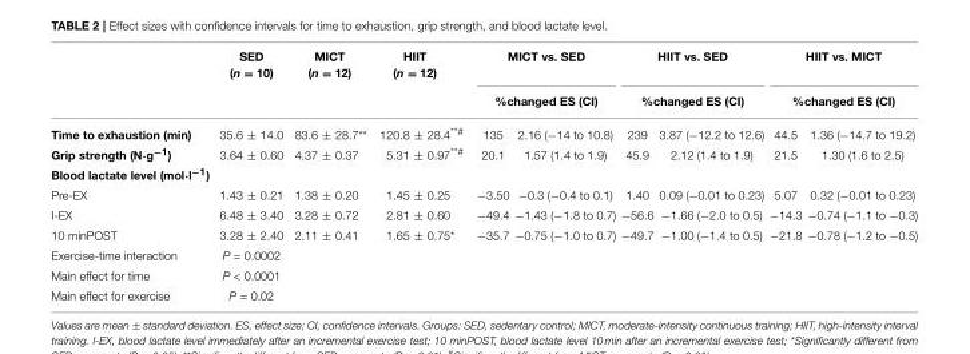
<table><thead><tr><td rowspan="3">Time to exhaustion (min)</td><td rowspan="3">SED (n = 10) 35.6 ± 14.0</td><td rowspan="3">MICT (n = 12) 83.6 ± 28.7**</td><td rowspan="3">HIIT (n = 12) 120.8 ± 28.4<sup>**#</sup></td><td rowspan="2" colspan="2">MICT vs. SED %changed ES (CI)</td><td rowspan="2" colspan="2">HIIT vs. SED %changed ES (CI)</td><td rowspan="2" colspan="2">HIIT vs. MICT %changed ES (CI)</td></tr><tr></tr><tr><td>135</td><td>2.16 (−14 to 10.8)</td><td>239</td><td>3.87 (−12.2 to 12.6)</td><td>44.5</td><td>1.36 (−14.7 to 19.2)</td></tr></thead><tbody><tr><td>Grip strength (N·g<sup>−1</sup>)</td><td>3.64 ± 0.60</td><td>4.37 ± 0.37</td><td>5.31 ± 0.97<sup>**#</sup></td><td>20.1</td><td>1.57 (1.4 to 1.9)</td><td>45.9</td><td>2.12 (1.4 to 1.9)</td><td>21.5</td><td>1.30 (1.6 to 2.5)</td></tr><tr><td colspan="10">Blood lactate level (mol·l<sup>−1</sup>)</td></tr><tr><td>Pre-EX</td><td>1.43 ± 0.21</td><td>1.38 ± 0.20</td><td>1.45 ± 0.25</td><td>−3.50</td><td>−0.3 (−0.4 to 0.1)</td><td>1.40</td><td>0.09 (−0.01 to 0.23)</td><td>5.07</td><td>0.32 (−0.01 to 0.23)</td></tr><tr><td>I-EX</td><td>6.48 ± 3.40</td><td>3.28 ± 0.72</td><td>2.81 ± 0.60</td><td>−49.4</td><td>−1.43 (−1.8 to 0.7)</td><td>−56.6</td><td>−1.66 (−2.0 to 0.5)</td><td>−14.3</td><td>−0.74 (−1.1 to −0.3)</td></tr><tr><td>10 minPOST</td><td>3.28 ± 2.40</td><td>2.11 ± 0.41</td><td>1.65 ± 0.75*</td><td>−35.7</td><td>−0.75 (−1.0 to 0.7)</td><td>−49.7</td><td>−1.00 (−1.4 to 0.5)</td><td>−21.8</td><td>−0.78 (−1.2 to −0.5)</td></tr><tr><td>Exercise-time interaction</td><td>P = 0.0002</td><td></td><td></td><td></td><td></td><td></td><td></td><td></td><td></td></tr><tr><td>Main effect for time</td><td>P &lt; 0.0001</td><td></td><td></td><td></td><td></td><td></td><td></td><td></td><td></td></tr><tr><td>Main effect for exercise</td><td>P = 0.02</td><td></td><td></td><td></td><td></td><td></td><td></td><td></td><td></td></tr></tbody></table>